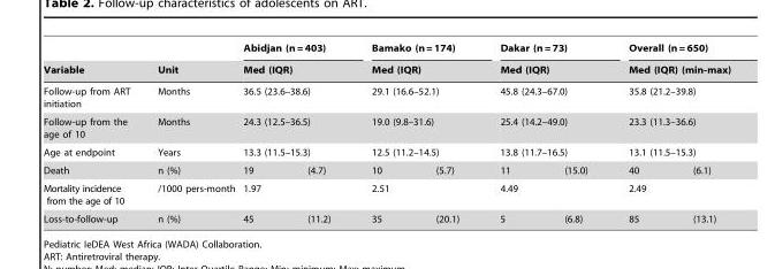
<table><thead><tr><td rowspan="2">Variable</td><td rowspan="2">Unit</td><td rowspan="2" colspan="2">Abidjan (n = 403) Med (IQR)</td><td rowspan="2" colspan="2">Bamako (n = 174) Med (IQR)</td><td rowspan="2" colspan="2">Dakar (n = 73) Med (IQR)</td><td rowspan="2" colspan="2">Overall (n = 650) Med (IQR) (min-max)</td></tr><tr></tr></thead><tbody><tr><td>Follow-up from ART initiation</td><td>Months</td><td colspan="2">36.5 (23.6–38.6)</td><td colspan="2">29.1 (16.6–52.1)</td><td colspan="2">45.8 (24.3–67.0)</td><td colspan="2">35.8 (21.2–39.8)</td></tr><tr><td>Follow-up from the age of 10</td><td>Months</td><td colspan="2">24.3 (12.5–36.5)</td><td colspan="2">19.0 (9.8–31.6)</td><td colspan="2">25.4 (14.2–49.0)</td><td colspan="2">23.3 (11.3–36.6)</td></tr><tr><td>Age at endpoint</td><td>Years</td><td colspan="2">13.3 (11.5–15.3)</td><td colspan="2">12.5 (11.2–14.5)</td><td colspan="2">13.8 (11.7–16.5)</td><td colspan="2">13.1 (11.5–15.3)</td></tr><tr><td>Death</td><td>n (%)</td><td>19</td><td>(4.7)</td><td>10</td><td>(5.7)</td><td>11</td><td>(15.0)</td><td>40</td><td>(6.1)</td></tr><tr><td>Mortality incidence from the age of 10</td><td>/1000 pers-month</td><td>1.97</td><td></td><td>2.51</td><td></td><td>4.49</td><td></td><td>2.49</td><td></td></tr><tr><td>Loss-to-follow-up</td><td>n (%)</td><td>45</td><td>(11.2)</td><td>35</td><td>(20.1)</td><td>5</td><td>(6.8)</td><td>85</td><td>(13.1)</td></tr></tbody></table>